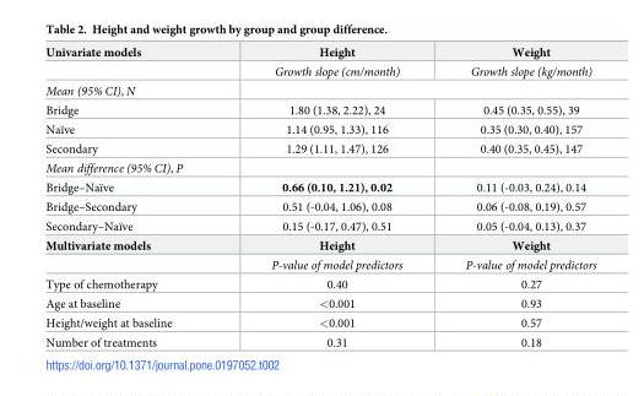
<table><tbody><tr><td rowspan="2">Univariate models</td><td>Height</td><td>Weight</td></tr><tr><td>Growth slope (cm/month)</td><td>Growth slope (kg/month)</td></tr><tr><td colspan="3">Mean (95% CI), N</td></tr><tr><td>Bridge</td><td>1.80 (1.38, 2.22), 24</td><td>0.45 (0.35, 0.55), 39</td></tr><tr><td>Naïve</td><td>1.14 (0.95, 1.33), 116</td><td>0.35 (0.30, 0.40), 157</td></tr><tr><td>Secondary</td><td>1.29 (1.11, 1.47), 126</td><td>0.40 (0.35, 0.45), 147</td></tr><tr><td colspan="3">Mean difference (95% CI), P</td></tr><tr><td>Bridge–Naïve</td><td>0.66 (0.10, 1.21), 0.02</td><td>0.11 (-0.03, 0.24), 0.14</td></tr><tr><td>Bridge–Secondary</td><td>0.51 (-0.04, 1.06), 0.08</td><td>0.06 (-0.08, 0.19), 0.57</td></tr><tr><td>Secondary–Naïve</td><td>0.15 (-0.17, 0.47), 0.51</td><td>0.05 (-0.04, 0.13), 0.37</td></tr><tr><td rowspan="2">Multivariate models</td><td>Height</td><td>Weight</td></tr><tr><td>P-value of model predictors</td><td>P-value of model predictors</td></tr><tr><td>Type of chemotherapy</td><td>0.40</td><td>0.27</td></tr><tr><td>Age at baseline</td><td>&lt;0.001</td><td>0.93</td></tr><tr><td>Height/weight at baseline</td><td>&lt;0.001</td><td>0.57</td></tr><tr><td>Number of treatments</td><td>0.31</td><td>0.18</td></tr></tbody></table>